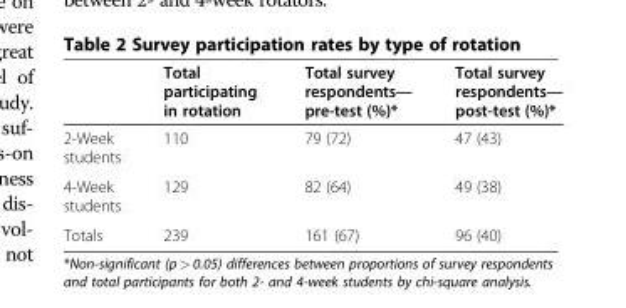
<table><thead><tr><td></td><td>Total participating in rotation</td><td>Total survey respondents— pre-test (%)*</td><td>Total survey respondents— post-test (%)*</td></tr></thead><tbody><tr><td>2-Week students</td><td>110</td><td>79 (72)</td><td>47 (43)</td></tr><tr><td>4-Week students</td><td>129</td><td>82 (64)</td><td>49 (38)</td></tr><tr><td>Totals</td><td>239</td><td>161 (67)</td><td>96 (40)</td></tr></tbody></table>